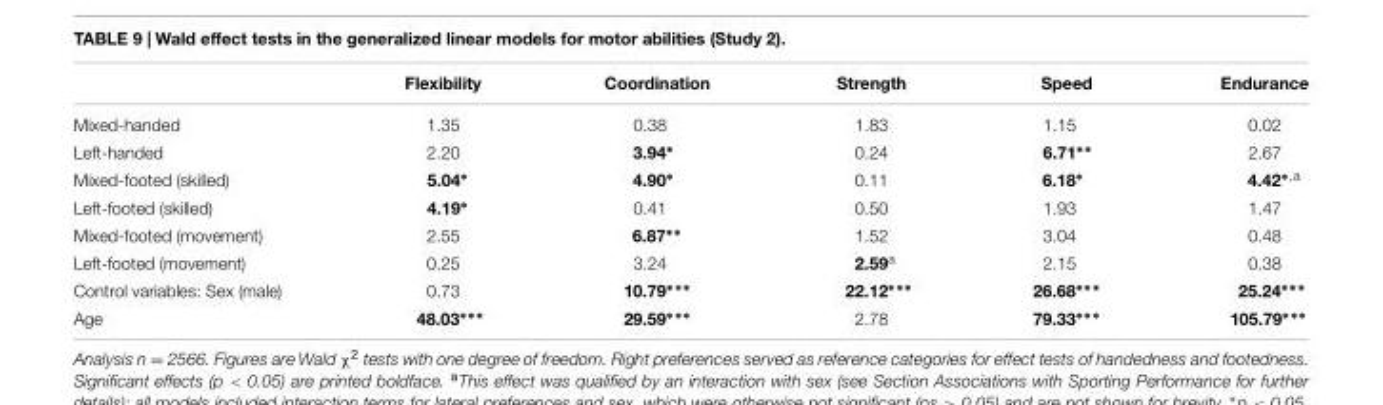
<table><thead><tr><td></td><td>Flexibility</td><td>Coordination</td><td>Strength</td><td>Speed</td><td>Endurance</td></tr></thead><tbody><tr><td>Mixed-handed</td><td>1.35</td><td>0.38</td><td>1.83</td><td>1.15</td><td>0.02</td></tr><tr><td>Left-handed</td><td>2.20</td><td>3.94∗</td><td>0.24</td><td>6.71∗∗</td><td>2.67</td></tr><tr><td>Mixed-footed (skilled)</td><td>5.04∗</td><td>4.90∗</td><td>0.11</td><td>6.18∗</td><td>4.42<sup>∗,a</sup></td></tr><tr><td>Left-footed (skilled)</td><td>4.19∗</td><td>0.41</td><td>0.50</td><td>1.93</td><td>1.47</td></tr><tr><td>Mixed-footed (movement)</td><td>2.55</td><td>6.87∗∗</td><td>1.52</td><td>3.04</td><td>0.48</td></tr><tr><td>Left-footed (movement)</td><td>0.25</td><td>3.24</td><td>2.59<sup>a</sup></td><td>2.15</td><td>0.38</td></tr><tr><td>Control variables: Sex (male)</td><td>0.73</td><td>10.79∗∗∗</td><td>22.12∗∗∗</td><td>26.68∗∗∗</td><td>25.24∗∗∗</td></tr><tr><td>Age</td><td>48.03∗∗∗</td><td>29.59∗∗∗</td><td>2.78</td><td>79.33∗∗∗</td><td>105.79∗∗∗</td></tr></tbody></table>